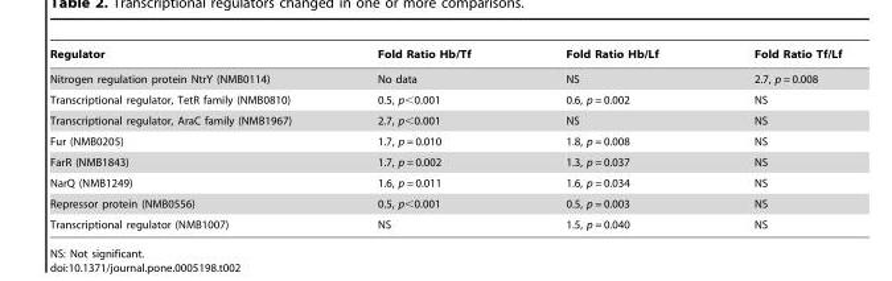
<table><thead><tr><td>Regulator</td><td>Fold Ratio Hb/Tf</td><td>Fold Ratio Hb/Lf</td><td>Fold Ratio Tf/Lf</td></tr></thead><tbody><tr><td>Nitrogen regulation protein NtrY (NMB0114)</td><td>No data</td><td>NS</td><td>2.7, p = 0.008</td></tr><tr><td>Transcriptional regulator, TetR family (NMB0810)</td><td>0.5, p&lt;0.001</td><td>0.6, p = 0.002</td><td>NS</td></tr><tr><td>Transcriptional regulator, AraC family (NMB1967)</td><td>2.7, p&lt;0.001</td><td>NS</td><td>NS</td></tr><tr><td>Fur (NMB0205)</td><td>1.7, p = 0.010</td><td>1.8, p = 0.008</td><td>NS</td></tr><tr><td>FarR (NMB1843)</td><td>1.7, p = 0.002</td><td>1.3, p = 0.037</td><td>NS</td></tr><tr><td>NarQ (NMB1249)</td><td>1.6, p = 0.011</td><td>1.6, p = 0.034</td><td>NS</td></tr><tr><td>Repressor protein (NMB0556)</td><td>0.5, p&lt;0.001</td><td>0.5, p = 0.003</td><td>NS</td></tr><tr><td>Transcriptional regulator (NMB1007)</td><td>NS</td><td>1.5, p = 0.040</td><td>NS</td></tr></tbody></table>